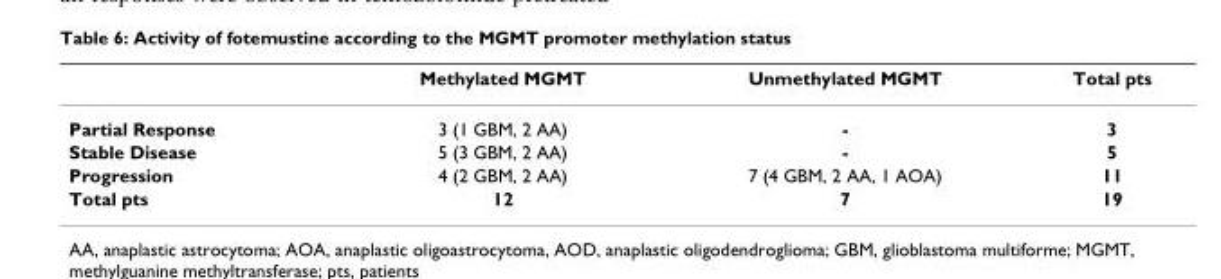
<table><thead><tr><td></td><td>Methylated MGMT</td><td>Unmethylated MGMT</td><td>Total pts</td></tr></thead><tbody><tr><td>Partial Response</td><td>3 (1 GBM, 2 AA)</td><td>-</td><td>3</td></tr><tr><td>Stable Disease</td><td>5 (3 GBM, 2 AA)</td><td>-</td><td>5</td></tr><tr><td>Progression</td><td>4 (2 GBM, 2 AA)</td><td>7 (4 GBM, 2 AA, 1 AOA)</td><td>11</td></tr><tr><td>Total pts</td><td>12</td><td>7</td><td>19</td></tr></tbody></table>